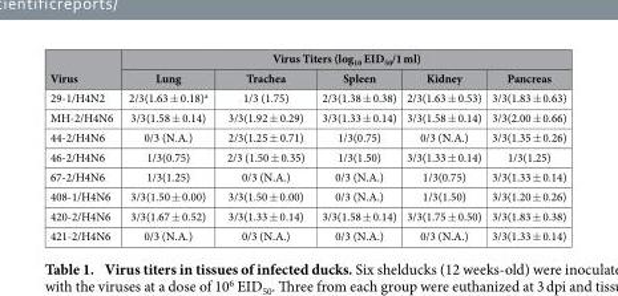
<table><thead><tr><td rowspan="2">Virus</td><td colspan="5">Virus Titers (log<sub>10</sub> EID<sub>50</sub>/1 ml)</td></tr><tr><td>Lung</td><td>Trachea</td><td>Spleen</td><td>Kidney</td><td>Pancreas</td></tr></thead><tbody><tr><td>29-1/H4N2</td><td>2/3(1.63 ± 0.18)<sup>a</sup></td><td>1/3 (1.75)</td><td>2/3(1.38 ± 0.38)</td><td>2/3(1.63 ± 0.53)</td><td>3/3(1.83 ± 0.63)</td></tr><tr><td>MH-2/H4N6</td><td>3/3(1.58 ± 0.14)</td><td>3/3(1.92 ± 0.29)</td><td>3/3(1.33 ± 0.14)</td><td>3/3(1.58 ± 0.14)</td><td>3/3(2.00 ± 0.66)</td></tr><tr><td>44-2/H4N6</td><td>0/3 (N.A.)</td><td>2/3(1.25 ± 0.71)</td><td>1/3(0.75)</td><td>0/3 (N.A.)</td><td>3/3(1.35 ± 0.26)</td></tr><tr><td>46-2/H4N6</td><td>1/3(0.75)</td><td>2/3 (1.50 ± 0.35)</td><td>1/3(1.50)</td><td>3/3(1.33 ± 0.14)</td><td>1/3(1.25)</td></tr><tr><td>67-2/H4N6</td><td>1/3(1.25)</td><td>0/3 (N.A.)</td><td>0/3 (N.A.)</td><td>1/3(0.75)</td><td>3/3(1.33 ± 0.14)</td></tr><tr><td>408-1/H4N6</td><td>3/3(1.50 ± 0.00)</td><td>3/3(1.50 ± 0.00)</td><td>0/3 (N.A.)</td><td>1/3(1.50)</td><td>3/3(1.20 ± 0.26)</td></tr><tr><td>420-2/H4N6</td><td>3/3(1.67 ± 0.52)</td><td>3/3(1.33 ± 0.14)</td><td>3/3(1.58 ± 0.14)</td><td>3/3(1.75 ± 0.50)</td><td>3/3(1.83 ± 0.38)</td></tr><tr><td>421-2/H4N6</td><td>0/3 (N.A.)</td><td>0/3 (N.A.)</td><td>0/3 (N.A.)</td><td>0/3 (N.A.)</td><td>3/3(1.33 ± 0.14)</td></tr></tbody></table>